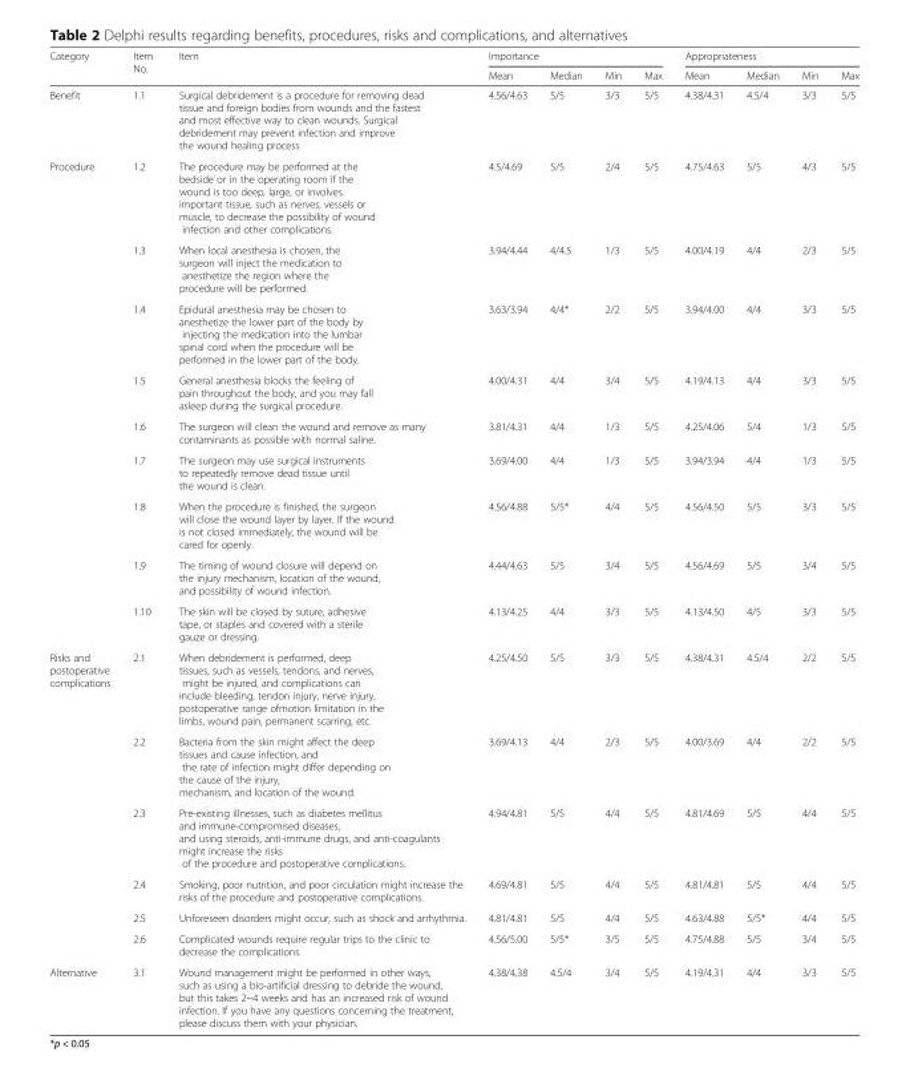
<table><thead><tr><td rowspan="2">Category</td><td rowspan="2">Item No.</td><td rowspan="2">Item</td><td colspan="4">Importance</td><td colspan="4">Appropriateness</td></tr><tr><td>Mean</td><td>Median</td><td>Min</td><td>Max</td><td>Mean</td><td>Median</td><td>Min</td><td>Max</td></tr></thead><tbody><tr><td>Benefit</td><td>1.1</td><td>Surgical debridement is a procedure for removing dead tissue and foreign bodies from wounds and the fastest and most effective way to clean wounds. Surgical debridement may prevent infection and improve the wound healing process.</td><td>4.56/4.63</td><td>5/5</td><td>3/3</td><td>5/5</td><td>4.38/4.31</td><td>4.5/4</td><td>3/3</td><td>5/5</td></tr><tr><td rowspan="9">Procedure</td><td>1.2</td><td>The procedure may be performed at the bedside or in the operating room if the wound is too deep, large, or involves important tissue, such as nerves, vessels or muscle, to decrease the possibility of wound infection and other complications.</td><td>4.5/4.69</td><td>5/5</td><td>2/4</td><td>5/5</td><td>4.75/4.63</td><td>5/5</td><td>4/3</td><td>5/5</td></tr><tr><td>1.3</td><td>When local anesthesia is chosen, the surgeon will inject the medication to anesthetize the region where the procedure will be performed.</td><td>3.94/4.44</td><td>4/4.5</td><td>1/3</td><td>5/5</td><td>4.00/4.19</td><td>4/4</td><td>2/3</td><td>5/5</td></tr><tr><td>1.4</td><td>Epidural anesthesia may be chosen to anesthetize the lower part of the body by injecting the medication into the lumbar spinal cord when the procedure will be performed in the lower part of the body.</td><td>3.63/3.94</td><td>4/4*</td><td>2/2</td><td>5/5</td><td>3.94/4.00</td><td>4/4</td><td>3/3</td><td>5/5</td></tr><tr><td>1.5</td><td>General anesthesia blocks the feeling of pain throughout the body, and you may fall asleep during the surgical procedure.</td><td>4.00/4.31</td><td>4/4</td><td>3/4</td><td>5/5</td><td>4.19/4.13</td><td>4/4</td><td>3/3</td><td>5/5</td></tr><tr><td>1.6</td><td>The surgeon will clean the wound and remove as many contaminants as possible with normal saline.</td><td>3.81/4.31</td><td>4/4</td><td>1/3</td><td>5/5</td><td>4.25/4.06</td><td>5/4</td><td>1/3</td><td>5/5</td></tr><tr><td>1.7</td><td>The surgeon may use surgical instruments to repeatedly remove dead tissue until the wound is clean.</td><td>3.69/4.00</td><td>4/4</td><td>1/3</td><td>5/5</td><td>3.94/3.94</td><td>4/4</td><td>1/3</td><td>5/5</td></tr><tr><td>1.8</td><td>When the procedure is finished, the surgeon will close the wound layer by layer. If the wound is not closed immediately, the wound will be cared for openly.</td><td>4.56/4.88</td><td>5/5*</td><td>4/4</td><td>5/5</td><td>4.56/4.50</td><td>5/5</td><td>3/3</td><td>5/5</td></tr><tr><td>1.9</td><td>The timing of wound closure will depend on the injury mechanism, location of the wound, and possibility of wound infection.</td><td>4.44/4.63</td><td>5/5</td><td>3/4</td><td>5/5</td><td>4.56/4.69</td><td>5/5</td><td>3/4</td><td>5/5</td></tr><tr><td>1.10</td><td>The skin will be closed by suture, adhesive tape, or staples and covered with a sterile gauze or dressing.</td><td>4.13/4.25</td><td>4/4</td><td>3/3</td><td>5/5</td><td>4.13/4.50</td><td>4/5</td><td>3/3</td><td>5/5</td></tr><tr><td rowspan="6">Risks and postoperative complications</td><td>2.1</td><td>When debridement is performed, deep tissues, such as vessels, tendons, and nerves, might be injured, and complications can include bleeding, tendon injury, nerve injury, postoperative range ofmotion limitation in the limbs, wound pain, permanent scarring, etc.</td><td>4.25/4.50</td><td>5/5</td><td>3/3</td><td>5/5</td><td>4.38/4.31</td><td>4.5/4</td><td>2/2</td><td>5/5</td></tr><tr><td>2.2</td><td>Bacteria from the skin might affect the deep tissues and cause infection, and the rate of infection might differ depending on the cause of the injury, mechanism, and location of the wound.</td><td>3.69/4.13</td><td>4/4</td><td>2/3</td><td>5/5</td><td>4.00/3.69</td><td>4/4</td><td>2/2</td><td>5/5</td></tr><tr><td>2.3</td><td>Pre-existing illnesses, such as diabetes mellitus and immune-compromised diseases, and using steroids, anti-immune drugs, and anti-coagulants might increase the risks of the procedure and postoperative complications.</td><td>4.94/4.81</td><td>5/5</td><td>4/4</td><td>5/5</td><td>4.81/4.69</td><td>5/5</td><td>4/4</td><td>5/5</td></tr><tr><td>2.4</td><td>Smoking, poor nutrition, and poor circulation might increase the risks of the procedure and postoperative complications.</td><td>4.69/4.81</td><td>5/5</td><td>4/4</td><td>5/5</td><td>4.81/4.81</td><td>5/5</td><td>4/4</td><td>5/5</td></tr><tr><td>2.5</td><td>Unforeseen disorders might occur, such as shock and arrhythmia.</td><td>4.81/4.81</td><td>5/5</td><td>4/4</td><td>5/5</td><td>4.63/4.88</td><td>5/5*</td><td>4/4</td><td>5/5</td></tr><tr><td>2.6</td><td>Complicated wounds require regular trips to the clinic to decrease the complications.</td><td>4.56/5.00</td><td>5/5*</td><td>3/5</td><td>5/5</td><td>4.75/4.88</td><td>5/5</td><td>3/4</td><td>5/5</td></tr><tr><td>Alternative</td><td>3.1</td><td>Wound management might be performed in other ways, such as using a bio-artificial dressing to debride the wound, but this takes 2~4 weeks and has an increased risk of wound infection. If you have any questions concerning the treatment, please discuss them with your physician.</td><td>4.38/4.38</td><td>4.5/4</td><td>3/4</td><td>5/5</td><td>4.19/4.31</td><td>4/4</td><td>3/3</td><td>5/5</td></tr></tbody></table>